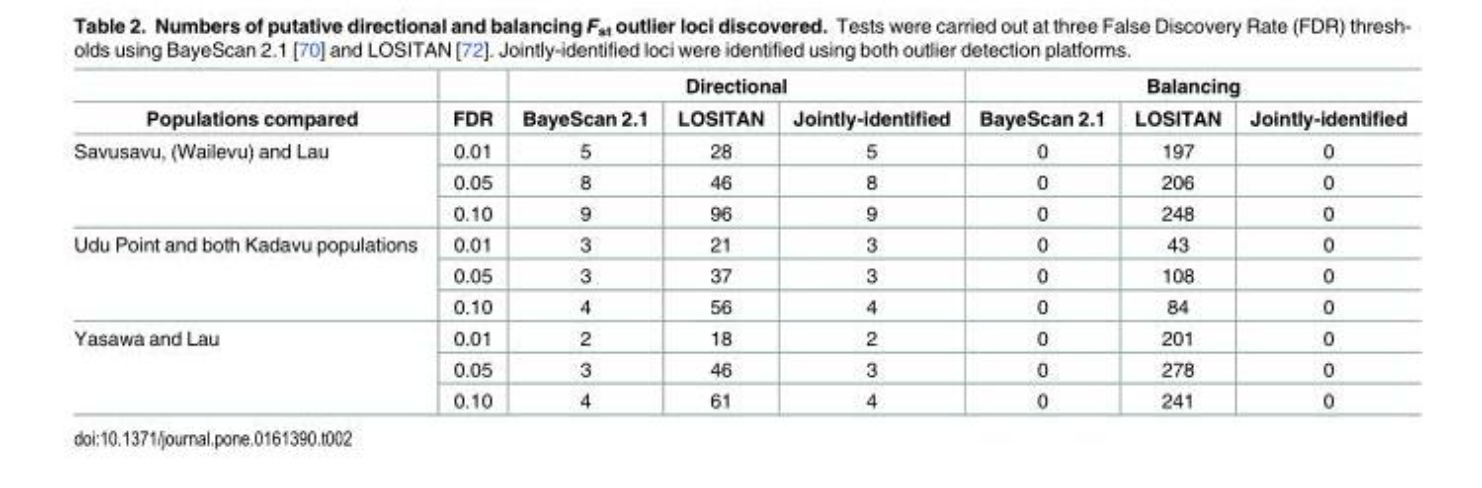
<table><thead><tr><td rowspan="2">Populations compared</td><td rowspan="2">FDR</td><td colspan="3">Directional</td><td colspan="3">Balancing</td></tr><tr><td>BayeScan 2.1</td><td>LOSITAN</td><td>Jointly-identified</td><td>BayeScan 2.1</td><td>LOSITAN</td><td>Jointly-identified</td></tr></thead><tbody><tr><td rowspan="3">Savusavu, (Wailevu) and Lau</td><td>0.01</td><td>5</td><td>28</td><td>5</td><td>0</td><td>197</td><td>0</td></tr><tr><td>0.05</td><td>8</td><td>46</td><td>8</td><td>0</td><td>206</td><td>0</td></tr><tr><td>0.10</td><td>9</td><td>96</td><td>9</td><td>0</td><td>248</td><td>0</td></tr><tr><td rowspan="3">Udu Point and both Kadavu populations</td><td>0.01</td><td>3</td><td>21</td><td>3</td><td>0</td><td>43</td><td>0</td></tr><tr><td>0.05</td><td>3</td><td>37</td><td>3</td><td>0</td><td>108</td><td>0</td></tr><tr><td>0.10</td><td>4</td><td>56</td><td>4</td><td>0</td><td>84</td><td>0</td></tr><tr><td rowspan="3">Yasawa and Lau</td><td>0.01</td><td>2</td><td>18</td><td>2</td><td>0</td><td>201</td><td>0</td></tr><tr><td>0.05</td><td>3</td><td>46</td><td>3</td><td>0</td><td>278</td><td>0</td></tr><tr><td>0.10</td><td>4</td><td>61</td><td>4</td><td>0</td><td>241</td><td>0</td></tr></tbody></table>